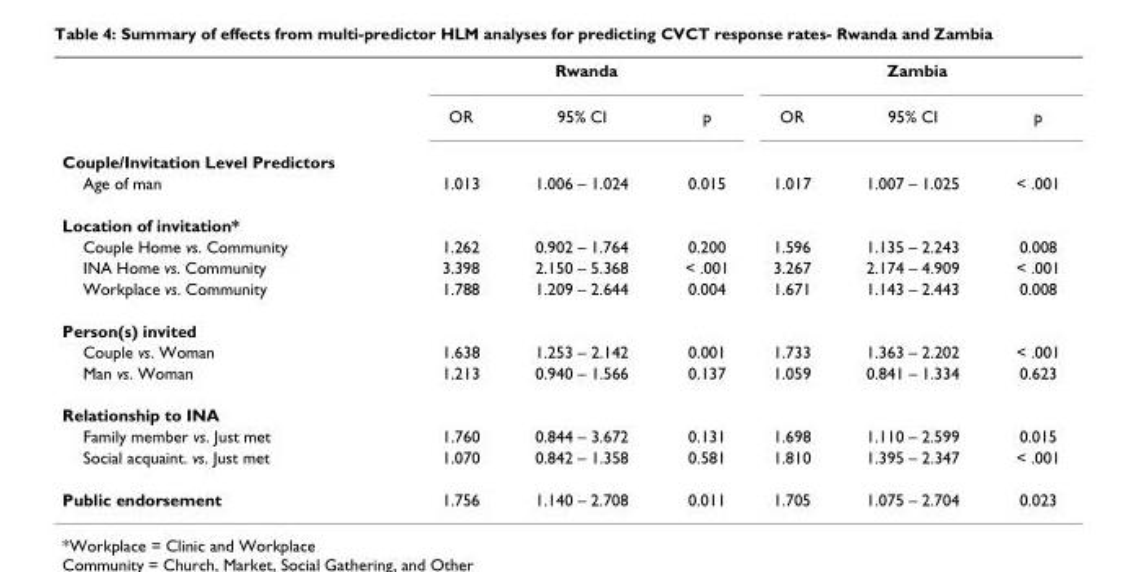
<table><thead><tr><td rowspan="2"></td><td colspan="3">Rwanda</td><td colspan="3">Zambia</td></tr><tr><td>OR</td><td>95% CI</td><td>p</td><td>OR</td><td>95% CI</td><td>p</td></tr></thead><tbody><tr><td colspan="7">Couple/Invitation Level Predictors</td></tr><tr><td>Age of man</td><td>1.013</td><td>1.006 – 1.024</td><td>0.015</td><td>1.017</td><td>1.007 – 1.025</td><td>&lt; .001</td></tr><tr><td colspan="7">Location of invitation*</td></tr><tr><td>Couple Home vs. Community</td><td>1.262</td><td>0.902 – 1.764</td><td>0.200</td><td>1.596</td><td>1.135 – 2.243</td><td>0.008</td></tr><tr><td>INA Home vs. Community</td><td>3.398</td><td>2.150 – 5.368</td><td>&lt; .001</td><td>3.267</td><td>2.174 – 4.909</td><td>&lt; .001</td></tr><tr><td>Workplace vs. Community</td><td>1.788</td><td>1.209 – 2.644</td><td>0.004</td><td>1.671</td><td>1.143 – 2.443</td><td>0.008</td></tr><tr><td colspan="7">Person(s) invited</td></tr><tr><td>Couple vs. Woman</td><td>1.638</td><td>1.253 – 2.142</td><td>0.001</td><td>1.733</td><td>1.363 – 2.202</td><td>&lt; .001</td></tr><tr><td>Man vs. Woman</td><td>1.213</td><td>0.940 – 1.566</td><td>0.137</td><td>1.059</td><td>0.841 – 1.334</td><td>0.623</td></tr><tr><td colspan="7">Relationship to INA</td></tr><tr><td>Family member vs. Just met</td><td>1.760</td><td>0.844 – 3.672</td><td>0.131</td><td>1.698</td><td>1.110 – 2.599</td><td>0.015</td></tr><tr><td>Social acquaint. vs. Just met</td><td>1.070</td><td>0.842 – 1.358</td><td>0.581</td><td>1.810</td><td>1.395 – 2.347</td><td>&lt; .001</td></tr><tr><td>Public endorsement</td><td>1.756</td><td>1.140 – 2.708</td><td>0.011</td><td>1.705</td><td>1.075 – 2.704</td><td>0.023</td></tr></tbody></table>